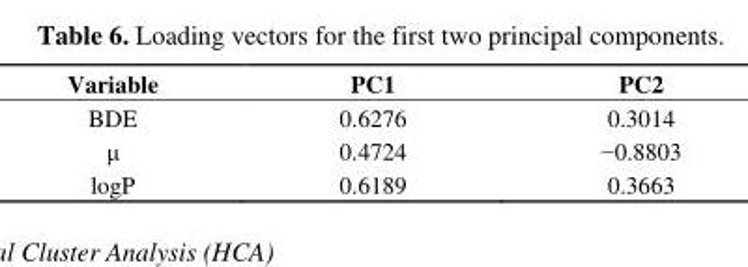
<table><thead><tr><td>Variable</td><td>PC1</td><td>PC2</td></tr></thead><tbody><tr><td>BDE</td><td>0.6276</td><td>0.3014</td></tr><tr><td>μ</td><td>0.4724</td><td>−0.8803</td></tr><tr><td>logP</td><td>0.6189</td><td>0.3663</td></tr></tbody></table>